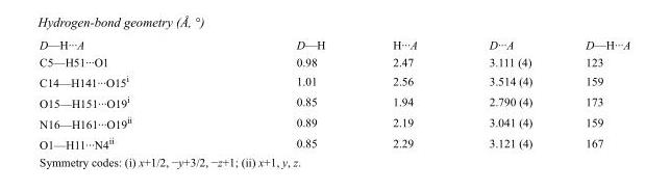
<table><tbody><tr><td>D—H···A</td><td>D—H</td><td>H···A</td><td>D···A</td><td>D—H···A</td></tr><tr><td>C5—H51···O1</td><td>0.98</td><td>2.47</td><td>3.111 (4)</td><td>123</td></tr><tr><td>C14—H141···O15<sup>i</sup></td><td>1.01</td><td>2.56</td><td>3.514 (4)</td><td>159</td></tr><tr><td>O15—H151···O19<sup>i</sup></td><td>0.85</td><td>1.94</td><td>2.790 (4)</td><td>173</td></tr><tr><td>N16—H161···O19<sup>ii</sup></td><td>0.89</td><td>2.19</td><td>3.041 (4)</td><td>159</td></tr><tr><td>O1—H11···N4<sup>ii</sup></td><td>0.85</td><td>2.29</td><td>3.121 (4)</td><td>167</td></tr></tbody></table>